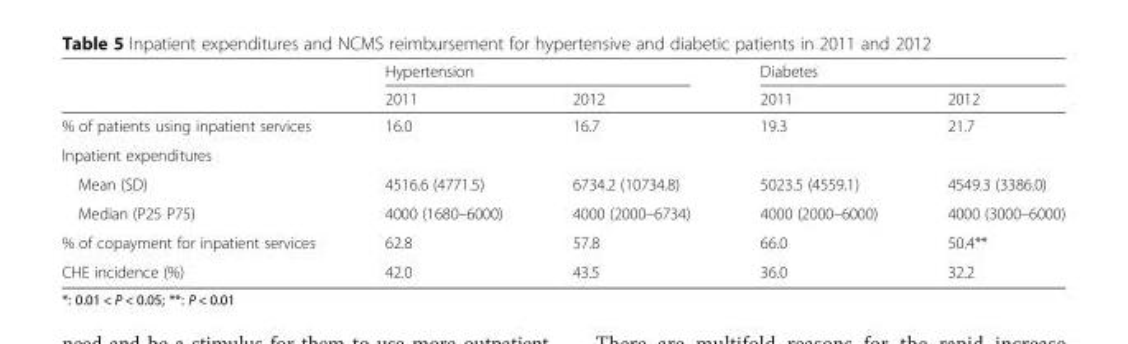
<table><thead><tr><td rowspan="2"></td><td colspan="2">Hypertension</td><td colspan="2">Diabetes</td></tr><tr><td>2011</td><td>2012</td><td>2011</td><td>2012</td></tr></thead><tbody><tr><td>% of patients using inpatient services</td><td>16.0</td><td>16.7</td><td>19.3</td><td>21.7</td></tr><tr><td colspan="5">Inpatient expenditures</td></tr><tr><td>Mean (SD)</td><td>4516.6 (4771.5)</td><td>6734.2 (10734.8)</td><td>5023.5 (4559.1)</td><td>4549.3 (3386.0)</td></tr><tr><td>Median (P25 P75)</td><td>4000 (1680–6000)</td><td>4000 (2000–6734)</td><td>4000 (2000–6000)</td><td>4000 (3000–6000)</td></tr><tr><td>% of copayment for inpatient services</td><td>62.8</td><td>57.8</td><td>66.0</td><td>50.4**</td></tr><tr><td>CHE incidence (%)</td><td>42.0</td><td>43.5</td><td>36.0</td><td>32.2</td></tr></tbody></table>